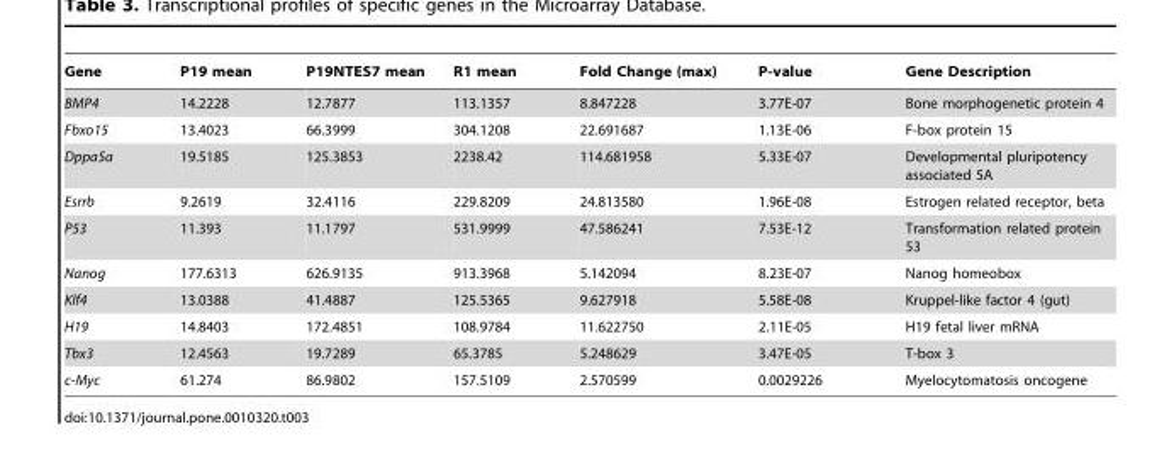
<table><thead><tr><td>Gene</td><td>P19 mean</td><td>P19NTES7 mean</td><td>R1 mean</td><td>Fold Change (max)</td><td>P-value</td><td>Gene Description</td></tr></thead><tbody><tr><td>BMP4</td><td>14.2228</td><td>12.7877</td><td>113.1357</td><td>8.847228</td><td>3.77E-07</td><td>Bone morphogenetic protein 4</td></tr><tr><td>Fbxo15</td><td>13.4023</td><td>66.3999</td><td>304.1208</td><td>22.691687</td><td>1.13E-06</td><td>F-box protein 15</td></tr><tr><td>Dppa5a</td><td>19.5185</td><td>125.3853</td><td>2238.42</td><td>114.681958</td><td>5.33E-07</td><td>Developmental pluripotency associated 5A</td></tr><tr><td>Esrrb</td><td>9.2619</td><td>32.4116</td><td>229.8209</td><td>24.813580</td><td>1.96E-08</td><td>Estrogen related receptor, beta</td></tr><tr><td>P53</td><td>11.393</td><td>11.1797</td><td>531.9999</td><td>47.586241</td><td>7.53E-12</td><td>Transformation related protein 53</td></tr><tr><td>Nanog</td><td>177.6313</td><td>626.9135</td><td>913.3968</td><td>5.142094</td><td>8.23E-07</td><td>Nanog homeobox</td></tr><tr><td>Klf4</td><td>13.0388</td><td>41.4887</td><td>125.5365</td><td>9.627918</td><td>5.58E-08</td><td>Kruppel-like factor 4 (gut)</td></tr><tr><td>H19</td><td>14.8403</td><td>172.4851</td><td>108.9784</td><td>11.622750</td><td>2.11E-05</td><td>H19 fetal liver mRNA</td></tr><tr><td>Tbx3</td><td>12.4563</td><td>19.7289</td><td>65.3785</td><td>5.248629</td><td>3.47E-05</td><td>T-box 3</td></tr><tr><td>c-Myc</td><td>61.274</td><td>86.9802</td><td>157.5109</td><td>2.570599</td><td>0.0029226</td><td>Myelocytomatosis oncogene</td></tr></tbody></table>